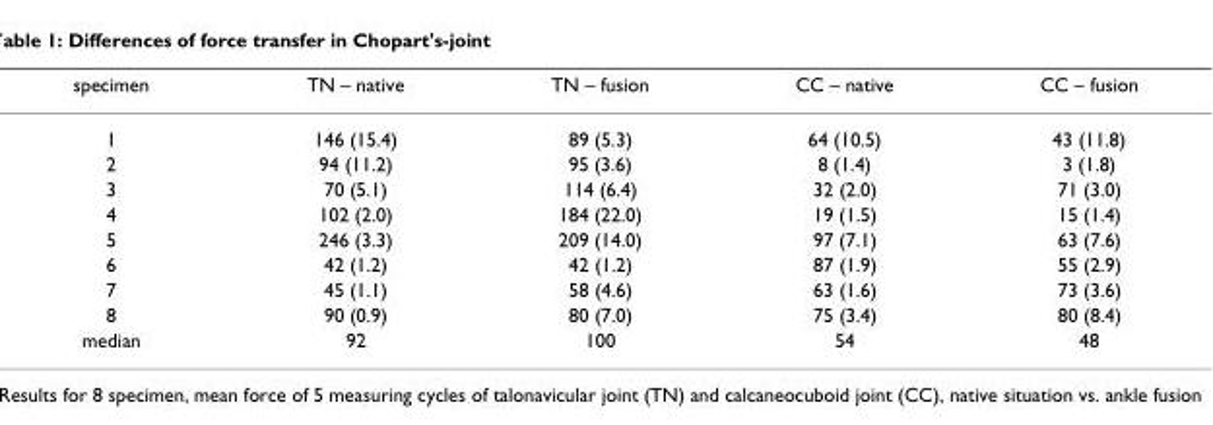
<table><thead><tr><td>specimen</td><td>TN – native</td><td>TN – fusion</td><td>CC – native</td><td>CC – fusion</td></tr></thead><tbody><tr><td>1</td><td>146 (15.4)</td><td>89 (5.3)</td><td>64 (10.5)</td><td>43 (11.8)</td></tr><tr><td>2</td><td>94 (11.2)</td><td>95 (3.6)</td><td>8 (1.4)</td><td>3 (1.8)</td></tr><tr><td>3</td><td>70 (5.1)</td><td>114 (6.4)</td><td>32 (2.0)</td><td>71 (3.0)</td></tr><tr><td>4</td><td>102 (2.0)</td><td>184 (22.0)</td><td>19 (1.5)</td><td>15 (1.4)</td></tr><tr><td>5</td><td>246 (3.3)</td><td>209 (14.0)</td><td>97 (7.1)</td><td>63 (7.6)</td></tr><tr><td>6</td><td>42 (1.2)</td><td>42 (1.2)</td><td>87 (1.9)</td><td>55 (2.9)</td></tr><tr><td>7</td><td>45 (1.1)</td><td>58 (4.6)</td><td>63 (1.6)</td><td>73 (3.6)</td></tr><tr><td>8</td><td>90 (0.9)</td><td>80 (7.0)</td><td>75 (3.4)</td><td>80 (8.4)</td></tr><tr><td>median</td><td>92</td><td>100</td><td>54</td><td>48</td></tr></tbody></table>